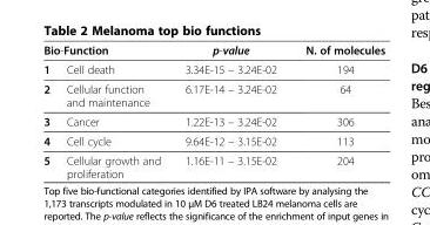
<table><thead><tr><td>Bio-Function</td><td>p-value</td><td>N. of molecules</td></tr></thead><tbody><tr><td>1 Cell death</td><td>3.34E-15 – 3.24E-02</td><td>194</td></tr><tr><td>2 Cellular function and maintenance</td><td>6.17E-14 – 3.24E-02</td><td>64</td></tr><tr><td>3 Cancer</td><td>1.22E-13 – 3.24E-02</td><td>306</td></tr><tr><td>4 Cell cycle</td><td>9.64E-12 – 3.15E-02</td><td>113</td></tr><tr><td>5 Cellular growth and proliferation</td><td>1.16E-11 – 3.15E-02</td><td>204</td></tr></tbody></table>